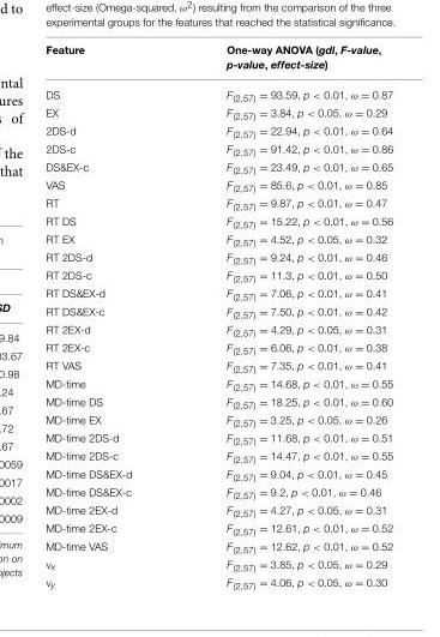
<table><thead><tr><td>Feature</td><td>One-way ANOVA (gdl, F-value, p-value, effect-size)</td></tr></thead><tbody><tr><td>DS</td><td>F<sub>(2,57)</sub> = 93.59, p &lt; 0.01, ω = 0.87</td></tr><tr><td>EX</td><td>F<sub>(2,57)</sub> = 3.84, p &lt; 0.05, ω = 0.29</td></tr><tr><td>2DS-d</td><td>F<sub>(2,57)</sub> = 22.94, p &lt; 0.01, ω = 0.64</td></tr><tr><td>2DS-c</td><td>F<sub>(2,57)</sub> = 91.42, p &lt; 0.01, ω = 0.86</td></tr><tr><td>DS&amp;EX-c</td><td>F<sub>(2,57)</sub> = 23.49, p &lt; 0.01, ω = 0.65</td></tr><tr><td>VAS</td><td>F<sub>(2,57)</sub> = 85.6, p &lt; 0.01, ω = 0.85</td></tr><tr><td>RT</td><td>F<sub>(2,57)</sub> = 9.87, p &lt; 0.01, ω = 0.47</td></tr><tr><td>RT DS</td><td>F<sub>(2,57)</sub> = 15.22, p &lt; 0.01, ω = 0.56</td></tr><tr><td>RT EX</td><td>F<sub>(2,57)</sub> = 4.52, p &lt; 0.05, ω = 0.32</td></tr><tr><td>RT 2DS-d</td><td>F<sub>(2,57)</sub> = 9.24, p &lt; 0.01, ω = 0.46</td></tr><tr><td>RT 2DS-c</td><td>F<sub>(2,57)</sub> = 11.3, p &lt; 0.01, ω = 0.50</td></tr><tr><td>RT DS&amp;EX-d</td><td>F<sub>(2,57)</sub> = 7.06, p &lt; 0.01, ω = 0.41</td></tr><tr><td>RT DS&amp;EX-c</td><td>F<sub>(2,57)</sub> = 7.50, p &lt; 0.01, ω = 0.42</td></tr><tr><td>RT 2EX-d</td><td>F<sub>(2,57)</sub> = 4.29, p &lt; 0.05, ω = 0.31</td></tr><tr><td>RT 2EX-c</td><td>F<sub>(2,57)</sub> = 6.06, p &lt; 0.01, ω = 0.38</td></tr><tr><td>RT VAS</td><td>F<sub>(2,57)</sub> = 7.35, p &lt; 0.01, ω = 0.41</td></tr><tr><td>MD-time</td><td>F<sub>(2,57)</sub> = 14.68, p &lt; 0.01, ω = 0.55</td></tr><tr><td>MD-time DS</td><td>F<sub>(2,57)</sub> = 18.25, p &lt; 0.01, ω = 0.60</td></tr><tr><td>MD-time EX</td><td>F<sub>(2,57)</sub> = 3.25, p &lt; 0.05, ω = 0.26</td></tr><tr><td>MD-time 2DS-d</td><td>F<sub>(2,57)</sub> = 11.68, p &lt; 0.01, ω = 0.51</td></tr><tr><td>MD-time 2DS-c</td><td>F<sub>(2,57)</sub> = 14.47, p &lt; 0.01, ω = 0.55</td></tr><tr><td>MD-time DS&amp;EX-d</td><td>F<sub>(2,57)</sub> = 9.04, p &lt; 0.01, ω = 0.45</td></tr><tr><td>MD-time DS&amp;EX-c</td><td>F<sub>(2,57)</sub> = 9.2, p &lt; 0.01, ω = 0.46</td></tr><tr><td>MD-time 2EX-d</td><td>F<sub>(2,57)</sub> = 4.27, p &lt; 0.05, ω = 0.31</td></tr><tr><td>MD-time 2EX-c</td><td>F<sub>(2,57)</sub> = 12.61, p &lt; 0.01, ω = 0.52</td></tr><tr><td>MD-time VAS</td><td>F<sub>(2,57)</sub> = 12.62, p &lt; 0.01, ω = 0.52</td></tr><tr><td>vx</td><td>F<sub>(2,57)</sub> = 3.85, p &lt; 0.05, ω = 0.29</td></tr><tr><td>vy</td><td>F<sub>(2,57)</sub> = 4.06, p &lt; 0.05, ω = 0.30</td></tr></tbody></table>